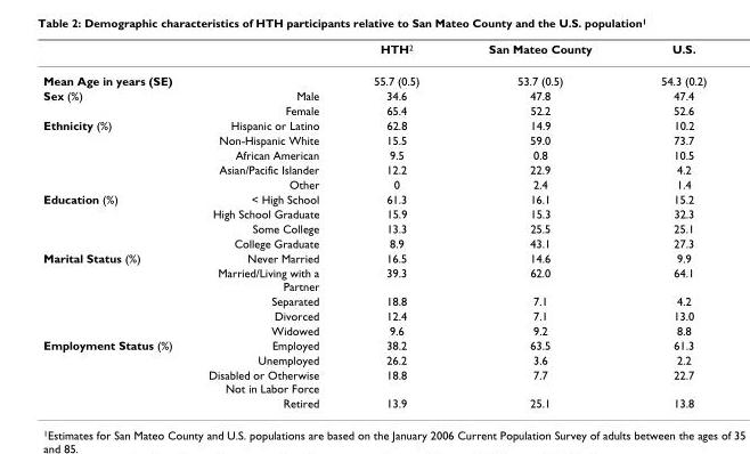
<table><thead><tr><td></td><td></td><td>HTH<sup>2</sup></td><td>San Mateo County</td><td>U.S.</td></tr></thead><tbody><tr><td>Mean Age in years (SE)</td><td></td><td>55.7 (0.5)</td><td>53.7 (0.5)</td><td>54.3 (0.2)</td></tr><tr><td rowspan="2">Sex (%)</td><td>Male</td><td>34.6</td><td>47.8</td><td>47.4</td></tr><tr><td>Female</td><td>65.4</td><td>52.2</td><td>52.6</td></tr><tr><td rowspan="5">Ethnicity (%)</td><td>Hispanic or Latino</td><td>62.8</td><td>14.9</td><td>10.2</td></tr><tr><td>Non-Hispanic White</td><td>15.5</td><td>59.0</td><td>73.7</td></tr><tr><td>African American</td><td>9.5</td><td>0.8</td><td>10.5</td></tr><tr><td>Asian/Pacific Islander</td><td>12.2</td><td>22.9</td><td>4.2</td></tr><tr><td>Other</td><td>0</td><td>2.4</td><td>1.4</td></tr><tr><td rowspan="4">Education (%)</td><td>&lt; High School</td><td>61.3</td><td>16.1</td><td>15.2</td></tr><tr><td>High School Graduate</td><td>15.9</td><td>15.3</td><td>32.3</td></tr><tr><td>Some College</td><td>13.3</td><td>25.5</td><td>25.1</td></tr><tr><td>College Graduate</td><td>8.9</td><td>43.1</td><td>27.3</td></tr><tr><td rowspan="5">Marital Status (%)</td><td>Never Married</td><td>16.5</td><td>14.6</td><td>9.9</td></tr><tr><td>Married/Living with a Partner</td><td>39.3</td><td>62.0</td><td>64.1</td></tr><tr><td>Separated</td><td>18.8</td><td>7.1</td><td>4.2</td></tr><tr><td>Divorced</td><td>12.4</td><td>7.1</td><td>13.0</td></tr><tr><td>Widowed</td><td>9.6</td><td>9.2</td><td>8.8</td></tr><tr><td rowspan="4">Employment Status (%)</td><td>Employed</td><td>38.2</td><td>63.5</td><td>61.3</td></tr><tr><td>Unemployed</td><td>26.2</td><td>3.6</td><td>2.2</td></tr><tr><td>Disabled or Otherwise Not in Labor Force</td><td>18.8</td><td>7.7</td><td>22.7</td></tr><tr><td>Retired</td><td>13.9</td><td>25.1</td><td>13.8</td></tr></tbody></table>